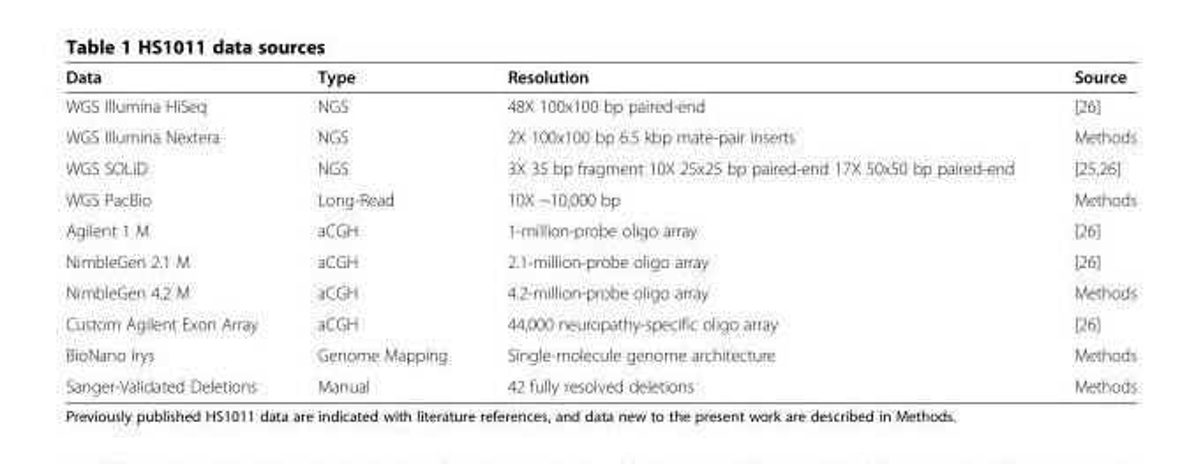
<table><thead><tr><td>Data</td><td>Type</td><td>Resolution</td><td>Source</td></tr></thead><tbody><tr><td>WGS Illumina HiSeq</td><td>NGS</td><td>48X 100x100 bp paired-end</td><td>[26]</td></tr><tr><td>WGS Illumina Nextera</td><td>NGS</td><td>2X 100x100 bp 6.5 kbp mate-pair inserts</td><td>Methods</td></tr><tr><td>WGS SOLiD</td><td>NGS</td><td>3X 35 bp fragment 10X 25x25 bp paired-end 17X 50x50 bp paired-end</td><td>[25,26]</td></tr><tr><td>WGS PacBio</td><td>Long-Read</td><td>10X ~10,000 bp</td><td>Methods</td></tr><tr><td>Agilent 1 M</td><td>aCGH</td><td>1-million-probe oligo array</td><td>[26]</td></tr><tr><td>NimbleGen 2.1 M</td><td>aCGH</td><td>2.1-million-probe oligo array</td><td>[26]</td></tr><tr><td>NimbleGen 4.2 M</td><td>aCGH</td><td>4.2-million-probe oligo array</td><td>Methods</td></tr><tr><td>Custom Agilent Exon Array</td><td>aCGH</td><td>44,000 neuropathy-specific oligo array</td><td>[26]</td></tr><tr><td>BioNano Irys</td><td>Genome Mapping</td><td>Single-molecule genome architecture</td><td>Methods</td></tr><tr><td>Sanger-Validated Deletions</td><td>Manual</td><td>42 fully resolved deletions</td><td>Methods</td></tr></tbody></table>